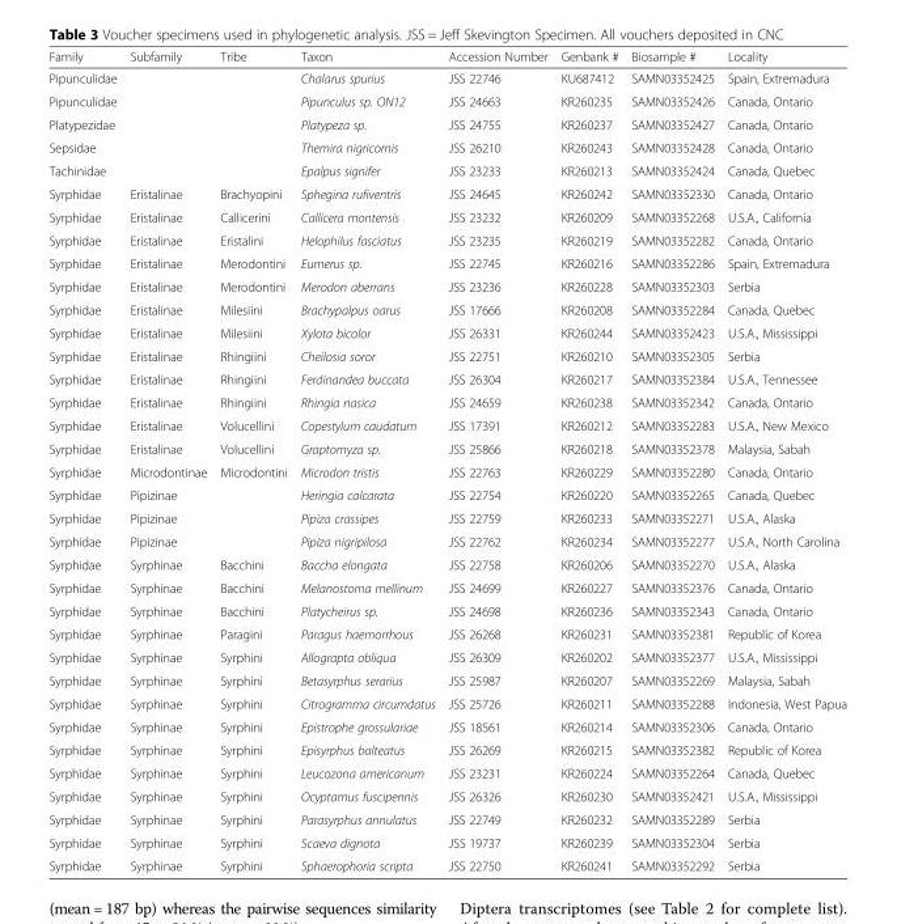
<table><thead><tr><td>Family</td><td>Subfamily</td><td>Tribe</td><td>Taxon</td><td>Accession Number</td><td>Genbank #</td><td>Biosample #</td><td>Locality</td></tr></thead><tbody><tr><td>Pipunculidae</td><td></td><td></td><td>Chalarus spurius</td><td>JSS 22746</td><td>KU687412</td><td>SAMN03352425</td><td>Spain, Extremadura</td></tr><tr><td>Pipunculidae</td><td></td><td></td><td>Pipunculus sp. ON12</td><td>JSS 24663</td><td>KR260235</td><td>SAMN03352426</td><td>Canada, Ontario</td></tr><tr><td>Platypezidae</td><td></td><td></td><td>Platypeza sp.</td><td>JSS 24755</td><td>KR260237</td><td>SAMN03352427</td><td>Canada, Ontario</td></tr><tr><td>Sepsidae</td><td></td><td></td><td>Themira nigricornis</td><td>JSS 26210</td><td>KR260243</td><td>SAMN03352428</td><td>Canada, Ontario</td></tr><tr><td>Tachinidae</td><td></td><td></td><td>Epalpus signifer</td><td>JSS 23233</td><td>KR260213</td><td>SAMN03352424</td><td>Canada, Quebec</td></tr><tr><td>Syrphidae</td><td>Eristalinae</td><td>Brachyopini</td><td>Sphegina rufiventris</td><td>JSS 24645</td><td>KR260242</td><td>SAMN03352330</td><td>Canada, Ontario</td></tr><tr><td>Syrphidae</td><td>Eristalinae</td><td>Callicerini</td><td>Callicera montensis</td><td>JSS 23232</td><td>KR260209</td><td>SAMN03352268</td><td>U.S.A., California</td></tr><tr><td>Syrphidae</td><td>Eristalinae</td><td>Eristalini</td><td>Helophilus fasciatus</td><td>JSS 23235</td><td>KR260219</td><td>SAMN03352282</td><td>Canada, Ontario</td></tr><tr><td>Syrphidae</td><td>Eristalinae</td><td>Merodontini</td><td>Eumerus sp.</td><td>JSS 22745</td><td>KR260216</td><td>SAMN03352286</td><td>Spain, Extremadura</td></tr><tr><td>Syrphidae</td><td>Eristalinae</td><td>Merodontini</td><td>Merodon aberrans</td><td>JSS 23236</td><td>KR260228</td><td>SAMN03352303</td><td>Serbia</td></tr><tr><td>Syrphidae</td><td>Eristalinae</td><td>Milesiini</td><td>Brachypalpus oarus</td><td>JSS 17666</td><td>KR260208</td><td>SAMN03352284</td><td>Canada, Quebec</td></tr><tr><td>Syrphidae</td><td>Eristalinae</td><td>Milesiini</td><td>Xylota bicolor</td><td>JSS 26331</td><td>KR260244</td><td>SAMN03352423</td><td>U.S.A., Mississippi</td></tr><tr><td>Syrphidae</td><td>Eristalinae</td><td>Rhingiini</td><td>Cheilosia soror</td><td>JSS 22751</td><td>KR260210</td><td>SAMN03352305</td><td>Serbia</td></tr><tr><td>Syrphidae</td><td>Eristalinae</td><td>Rhingiini</td><td>Ferdinandea buccata</td><td>JSS 26304</td><td>KR260217</td><td>SAMN03352384</td><td>U.S.A., Tennessee</td></tr><tr><td>Syrphidae</td><td>Eristalinae</td><td>Rhingiini</td><td>Rhingia nasica</td><td>JSS 24659</td><td>KR260238</td><td>SAMN03352342</td><td>Canada, Ontario</td></tr><tr><td>Syrphidae</td><td>Eristalinae</td><td>Volucellini</td><td>Copestylum caudatum</td><td>JSS 17391</td><td>KR260212</td><td>SAMN03352283</td><td>U.S.A., New Mexico</td></tr><tr><td>Syrphidae</td><td>Eristalinae</td><td>Volucellini</td><td>Graptomyza sp.</td><td>JSS 25866</td><td>KR260218</td><td>SAMN03352378</td><td>Malaysia, Sabah</td></tr><tr><td>Syrphidae</td><td>Microdontinae</td><td>Microdontini</td><td>Microdon tristis</td><td>JSS 22763</td><td>KR260229</td><td>SAMN03352280</td><td>Canada, Ontario</td></tr><tr><td>Syrphidae</td><td>Pipizinae</td><td></td><td>Heringia calcarata</td><td>JSS 22754</td><td>KR260220</td><td>SAMN03352265</td><td>Canada, Quebec</td></tr><tr><td>Syrphidae</td><td>Pipizinae</td><td></td><td>Pipiza crassipes</td><td>JSS 22759</td><td>KR260233</td><td>SAMN03352271</td><td>U.S.A., Alaska</td></tr><tr><td>Syrphidae</td><td>Pipizinae</td><td></td><td>Pipiza nigripilosa</td><td>JSS 22762</td><td>KR260234</td><td>SAMN03352277</td><td>U.S.A., North Carolina</td></tr><tr><td>Syrphidae</td><td>Syrphinae</td><td>Bacchini</td><td>Baccha elongata</td><td>JSS 22758</td><td>KR260206</td><td>SAMN03352270</td><td>U.S.A., Alaska</td></tr><tr><td>Syrphidae</td><td>Syrphinae</td><td>Bacchini</td><td>Melanostoma mellinum</td><td>JSS 24699</td><td>KR260227</td><td>SAMN03352376</td><td>Canada, Ontario</td></tr><tr><td>Syrphidae</td><td>Syrphinae</td><td>Bacchini</td><td>Platycheirus sp.</td><td>JSS 24698</td><td>KR260236</td><td>SAMN03352343</td><td>Canada, Ontario</td></tr><tr><td>Syrphidae</td><td>Syrphinae</td><td>Paragini</td><td>Paragus haemorrhous</td><td>JSS 26268</td><td>KR260231</td><td>SAMN03352381</td><td>Republic of Korea</td></tr><tr><td>Syrphidae</td><td>Syrphinae</td><td>Syrphini</td><td>Allograpta obliqua</td><td>JSS 26309</td><td>KR260202</td><td>SAMN03352377</td><td>U.S.A., Mississippi</td></tr><tr><td>Syrphidae</td><td>Syrphinae</td><td>Syrphini</td><td>Betasyrphus serarius</td><td>JSS 25987</td><td>KR260207</td><td>SAMN03352269</td><td>Malaysia, Sabah</td></tr><tr><td>Syrphidae</td><td>Syrphinae</td><td>Syrphini</td><td>Citrogramma circumdatus</td><td>JSS 25726</td><td>KR260211</td><td>SAMN03352288</td><td>Indonesia, West Papua</td></tr><tr><td>Syrphidae</td><td>Syrphinae</td><td>Syrphini</td><td>Epistrophe grossulariae</td><td>JSS 18561</td><td>KR260214</td><td>SAMN03352306</td><td>Canada, Ontario</td></tr><tr><td>Syrphidae</td><td>Syrphinae</td><td>Syrphini</td><td>Episyrphus balteatus</td><td>JSS 26269</td><td>KR260215</td><td>SAMN03352382</td><td>Republic of Korea</td></tr><tr><td>Syrphidae</td><td>Syrphinae</td><td>Syrphini</td><td>Leucozona americanum</td><td>JSS 23231</td><td>KR260224</td><td>SAMN03352264</td><td>Canada, Quebec</td></tr><tr><td>Syrphidae</td><td>Syrphinae</td><td>Syrphini</td><td>Ocyptamus fuscipennis</td><td>JSS 26326</td><td>KR260230</td><td>SAMN03352421</td><td>U.S.A., Mississippi</td></tr><tr><td>Syrphidae</td><td>Syrphinae</td><td>Syrphini</td><td>Parasyrphus annulatus</td><td>JSS 22749</td><td>KR260232</td><td>SAMN03352289</td><td>Serbia</td></tr><tr><td>Syrphidae</td><td>Syrphinae</td><td>Syrphini</td><td>Scaeva dignota</td><td>JSS 19737</td><td>KR260239</td><td>SAMN03352304</td><td>Serbia</td></tr><tr><td>Syrphidae</td><td>Syrphinae</td><td>Syrphini</td><td>Sphaerophoria scripta</td><td>JSS 22750</td><td>KR260241</td><td>SAMN03352292</td><td>Serbia</td></tr></tbody></table>